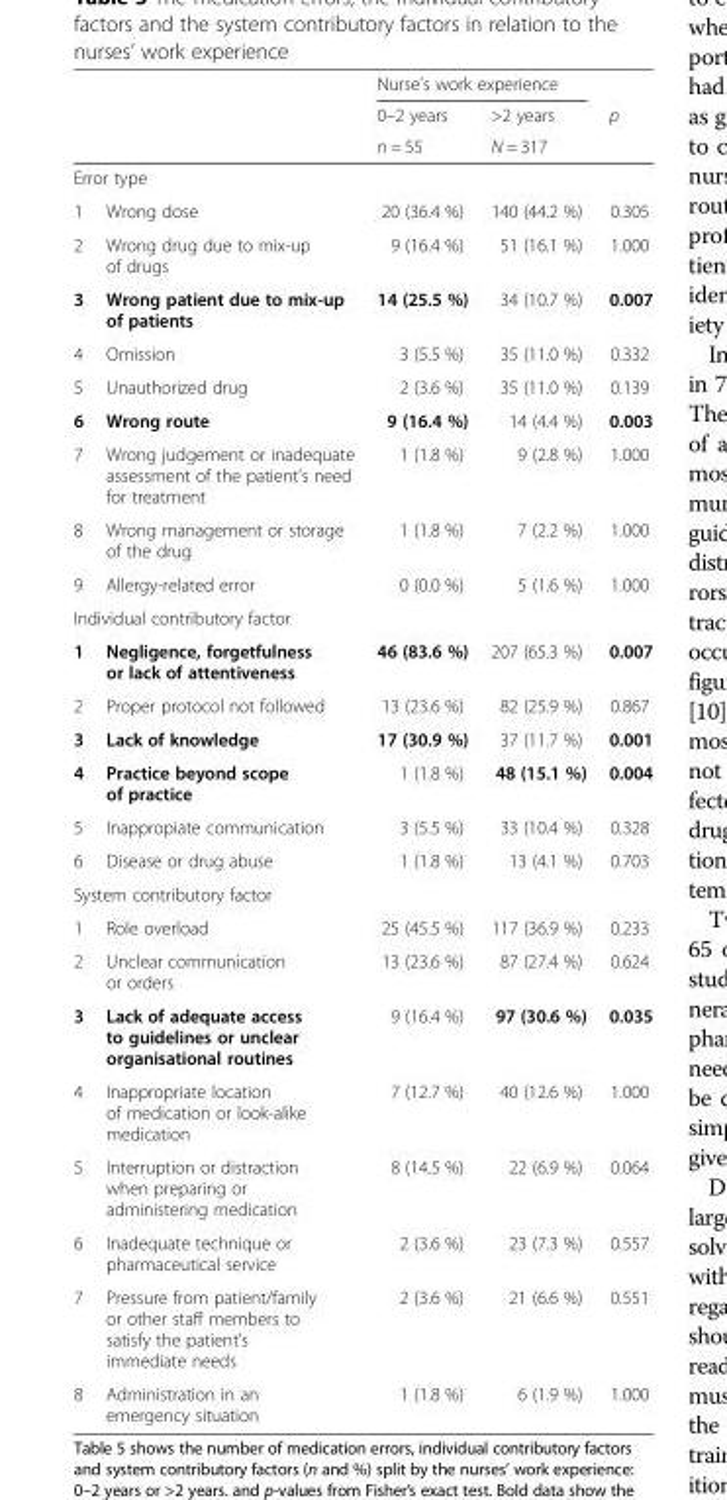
<table><thead><tr><td rowspan="3"></td><td rowspan="3"></td><td colspan="2">Nurse’s work experience</td><td rowspan="3">p</td></tr><tr><td rowspan="2">0–2 years n = 55</td><td rowspan="2">&gt;2 years N = 317</td></tr><tr></tr></thead><tbody><tr><td colspan="5">Error type</td></tr><tr><td>1</td><td>Wrong dose</td><td>20 (36.4 %)</td><td>140 (44.2 %)</td><td>0.305</td></tr><tr><td>2</td><td>Wrong drug due to mix-up of drugs</td><td>9 (16.4 %)</td><td>51 (16.1 %)</td><td>1.000</td></tr><tr><td>3</td><td>Wrong patient due to mix-up of patients</td><td>14 (25.5 %)</td><td>34 (10.7 %)</td><td>0.007</td></tr><tr><td>4</td><td>Omission</td><td>3 (5.5 %)</td><td>35 (11.0 %)</td><td>0.332</td></tr><tr><td>5</td><td>Unauthorized drug</td><td>2 (3.6 %)</td><td>35 (11.0 %)</td><td>0.139</td></tr><tr><td>6</td><td>Wrong route</td><td>9 (16.4 %)</td><td>14 (4.4 %)</td><td>0.003</td></tr><tr><td>7</td><td>Wrong judgement or inadequate assessment of the patient’s need for treatment</td><td>1 (1.8 %)</td><td>9 (2.8 %)</td><td>1.000</td></tr><tr><td>8</td><td>Wrong management or storage of the drug</td><td>1 (1.8 %)</td><td>7 (2.2 %)</td><td>1.000</td></tr><tr><td>9</td><td>Allergy-related error</td><td>0 (0.0 %)</td><td>5 (1.6 %)</td><td>1.000</td></tr><tr><td colspan="5">Individual contributory factor</td></tr><tr><td>1</td><td>Negligence, forgetfulness or lack of attentiveness</td><td>46 (83.6 %)</td><td>207 (65.3 %)</td><td>0.007</td></tr><tr><td>2</td><td>Proper protocol not followed</td><td>13 (23.6 %)</td><td>82 (25.9 %)</td><td>0.867</td></tr><tr><td>3</td><td>Lack of knowledge</td><td>17 (30.9 %)</td><td>37 (11.7 %)</td><td>0.001</td></tr><tr><td>4</td><td>Practice beyond scope of practice</td><td>1 (1.8 %)</td><td>48 (15.1 %)</td><td>0.004</td></tr><tr><td>5</td><td>Inappropiate communication</td><td>3 (5.5 %)</td><td>33 (10.4 %)</td><td>0.328</td></tr><tr><td>6</td><td>Disease or drug abuse</td><td>1 (1.8 %)</td><td>13 (4.1 %)</td><td>0.703</td></tr><tr><td colspan="5">System contributory factor</td></tr><tr><td>1</td><td>Role overload</td><td>25 (45.5 %)</td><td>117 (36.9 %)</td><td>0.233</td></tr><tr><td>2</td><td>Unclear communication or orders</td><td>13 (23.6 %)</td><td>87 (27.4 %)</td><td>0.624</td></tr><tr><td>3</td><td>Lack of adequate access to guidelines or unclear organisational routines</td><td>9 (16.4 %)</td><td>97 (30.6 %)</td><td>0.035</td></tr><tr><td>4</td><td>Inappropriate location of medication or look-alike medication</td><td>7 (12.7 %)</td><td>40 (12.6 %)</td><td>1.000</td></tr><tr><td>5</td><td>Interruption or distraction when preparing or administering medication</td><td>8 (14.5 %)</td><td>22 (6.9 %)</td><td>0.064</td></tr><tr><td>6</td><td>Inadequate technique or pharmaceutical service</td><td>2 (3.6 %)</td><td>23 (7.3 %)</td><td>0.557</td></tr><tr><td>7</td><td>Pressure from patient/family or other staff members to satisfy the patient’s immediate needs</td><td>2 (3.6 %)</td><td>21 (6.6 %)</td><td>0.551</td></tr><tr><td>8</td><td>Administration in an emergency situation</td><td>1 (1.8 %)</td><td>6 (1.9 %)</td><td>1.000</td></tr></tbody></table>